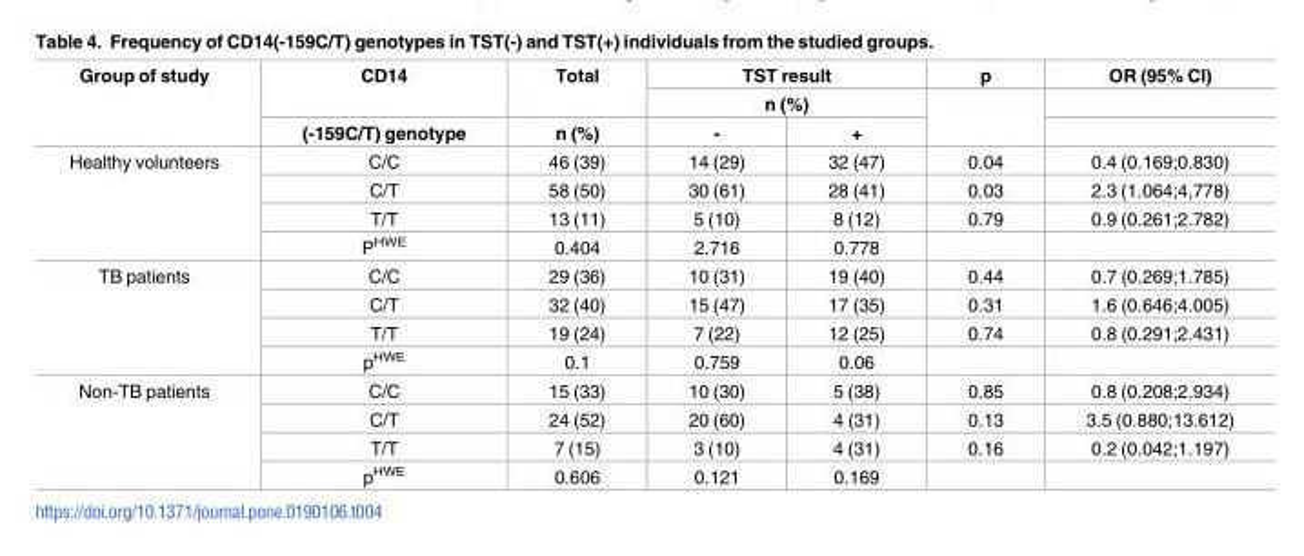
<table><thead><tr><td rowspan="3">Group of study</td><td rowspan="3">CD14 (-159C/T) genotype</td><td rowspan="3">Total n (%)</td><td rowspan="2" colspan="2">TST result n (%)</td><td rowspan="3">p</td><td rowspan="3">OR (95% CI)</td></tr><tr></tr><tr><td>-</td><td>+</td></tr></thead><tbody><tr><td rowspan="4">Healthy volunteers</td><td>C/C</td><td>46 (39)</td><td>14 (29)</td><td>32 (47)</td><td>0.04</td><td>0.4 (0.169;0.830)</td></tr><tr><td>C/T</td><td>58 (50)</td><td>30 (61)</td><td>28 (41)</td><td>0.03</td><td>2.3 (1.064;4,778)</td></tr><tr><td>T/T</td><td>13 (11)</td><td>5 (10)</td><td>8 (12)</td><td>0.79</td><td>0.9 (0.261;2.782)</td></tr><tr><td>P<sup>HWE</sup></td><td>0.404</td><td>2.716</td><td>0.778</td><td></td><td></td></tr><tr><td rowspan="4">TB patients</td><td>C/C</td><td>29 (36)</td><td>10 (31)</td><td>19 (40)</td><td>0.44</td><td>0.7 (0.269;1.785)</td></tr><tr><td>C/T</td><td>32 (40)</td><td>15 (47)</td><td>17 (35)</td><td>0.31</td><td>1.6 (0.646;4.005)</td></tr><tr><td>T/T</td><td>19 (24)</td><td>7 (22)</td><td>12 (25)</td><td>0.74</td><td>0.8 (0.291;2.431)</td></tr><tr><td>p<sup>HWE</sup></td><td>0.1</td><td>0.759</td><td>0.06</td><td></td><td></td></tr><tr><td rowspan="4">Non-TB patients</td><td>C/C</td><td>15 (33)</td><td>10 (30)</td><td>5 (38)</td><td>0.85</td><td>0.8 (0.208;2.934)</td></tr><tr><td>C/T</td><td>24 (52)</td><td>20 (60)</td><td>4 (31)</td><td>0.13</td><td>3.5 (0.880;13.612)</td></tr><tr><td>T/T</td><td>7 (15)</td><td>3 (10)</td><td>4 (31)</td><td>0.16</td><td>0.2 (0.042;1.197)</td></tr><tr><td>p<sup>HWE</sup></td><td>0.606</td><td>0.121</td><td>0.169</td><td></td><td></td></tr></tbody></table>